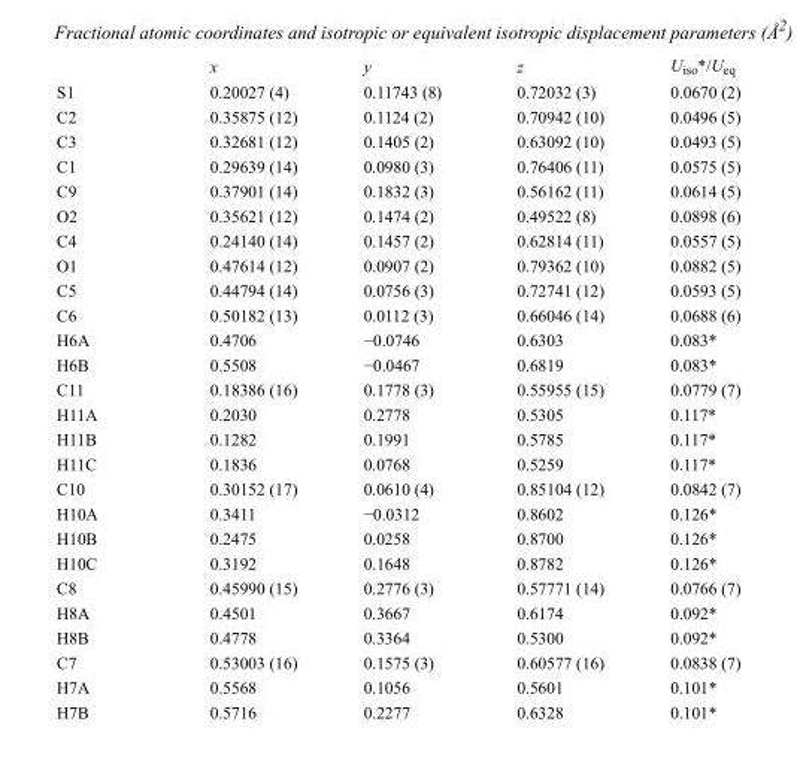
<table><thead><tr><td></td><td>x</td><td>y</td><td>z</td><td>U<sub>iso</sub>*/U<sub>eq</sub></td></tr></thead><tbody><tr><td>S1</td><td>0.20027 (4)</td><td>0.11743 (8)</td><td>0.72032 (3)</td><td>0.0670 (2)</td></tr><tr><td>C2</td><td>0.35875 (12)</td><td>0.1124 (2)</td><td>0.70942 (10)</td><td>0.0496 (5)</td></tr><tr><td>C3</td><td>0.32681 (12)</td><td>0.1405 (2)</td><td>0.63092 (10)</td><td>0.0493 (5)</td></tr><tr><td>C1</td><td>0.29639 (14)</td><td>0.0980 (3)</td><td>0.76406 (11)</td><td>0.0575 (5)</td></tr><tr><td>C9</td><td>0.37901 (14)</td><td>0.1832 (3)</td><td>0.56162 (11)</td><td>0.0614 (5)</td></tr><tr><td>O2</td><td>0.35621 (12)</td><td>0.1474 (2)</td><td>0.49522 (8)</td><td>0.0898 (6)</td></tr><tr><td>C4</td><td>0.24140 (14)</td><td>0.1457 (2)</td><td>0.62814 (11)</td><td>0.0557 (5)</td></tr><tr><td>O1</td><td>0.47614 (12)</td><td>0.0907 (2)</td><td>0.79362 (10)</td><td>0.0882 (5)</td></tr><tr><td>C5</td><td>0.44794 (14)</td><td>0.0756 (3)</td><td>0.72741 (12)</td><td>0.0593 (5)</td></tr><tr><td>C6</td><td>0.50182 (13)</td><td>0.0112 (3)</td><td>0.66046 (14)</td><td>0.0688 (6)</td></tr><tr><td>H6A</td><td>0.4706</td><td>−0.0746</td><td>0.6303</td><td>0.083*</td></tr><tr><td>H6B</td><td>0.5508</td><td>−0.0467</td><td>0.6819</td><td>0.083*</td></tr><tr><td>C11</td><td>0.18386 (16)</td><td>0.1778 (3)</td><td>0.55955 (15)</td><td>0.0779 (7)</td></tr><tr><td>H11A</td><td>0.2030</td><td>0.2778</td><td>0.5305</td><td>0.117*</td></tr><tr><td>H11B</td><td>0.1282</td><td>0.1991</td><td>0.5785</td><td>0.117*</td></tr><tr><td>H11C</td><td>0.1836</td><td>0.0768</td><td>0.5259</td><td>0.117*</td></tr><tr><td>C10</td><td>0.30152 (17)</td><td>0.0610 (4)</td><td>0.85104 (12)</td><td>0.0842 (7)</td></tr><tr><td>H10A</td><td>0.3411</td><td>−0.0312</td><td>0.8602</td><td>0.126*</td></tr><tr><td>H10B</td><td>0.2475</td><td>0.0258</td><td>0.8700</td><td>0.126*</td></tr><tr><td>H10C</td><td>0.3192</td><td>0.1648</td><td>0.8782</td><td>0.126*</td></tr><tr><td>C8</td><td>0.45990 (15)</td><td>0.2776 (3)</td><td>0.57771 (14)</td><td>0.0766 (7)</td></tr><tr><td>H8A</td><td>0.4501</td><td>0.3667</td><td>0.6174</td><td>0.092*</td></tr><tr><td>H8B</td><td>0.4778</td><td>0.3364</td><td>0.5300</td><td>0.092*</td></tr><tr><td>C7</td><td>0.53003 (16)</td><td>0.1575 (3)</td><td>0.60577 (16)</td><td>0.0838 (7)</td></tr><tr><td>H7A</td><td>0.5568</td><td>0.1056</td><td>0.5601</td><td>0.101*</td></tr><tr><td>H7B</td><td>0.5716</td><td>0.2277</td><td>0.6328</td><td>0.101*</td></tr></tbody></table>